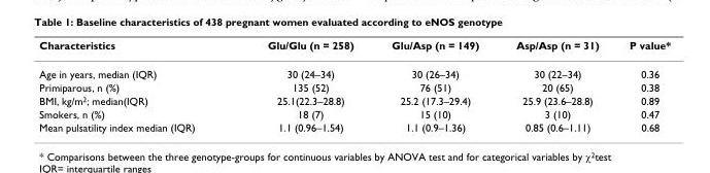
<table><thead><tr><td>Characteristics</td><td>Glu/Glu (n = 258)</td><td>Glu/Asp (n = 149)</td><td>Asp/Asp (n = 31)</td><td>P value*</td></tr></thead><tbody><tr><td>Age in years, median (IQR)</td><td>30 (24–34)</td><td>30 (26–34)</td><td>30 (22–34)</td><td>0.36</td></tr><tr><td>Primiparous, n (%)</td><td>135 (52)</td><td>76 (51)</td><td>20 (65)</td><td>0.38</td></tr><tr><td>BMI, kg/m<sup>2</sup>; median(IQR)</td><td>25.1(22.3–28.8)</td><td>25.2 (17.3–29.4)</td><td>25.9 (23.6–28.8)</td><td>0.89</td></tr><tr><td>Smokers, n (%)</td><td>18 (7)</td><td>15 (10)</td><td>3 (10)</td><td>0.47</td></tr><tr><td>Mean pulsatility index median (IQR)</td><td>1.1 (0.96–1.54)</td><td>1.1 (0.9–1.36)</td><td>0.85 (0.6–1.11)</td><td>0.68</td></tr></tbody></table>